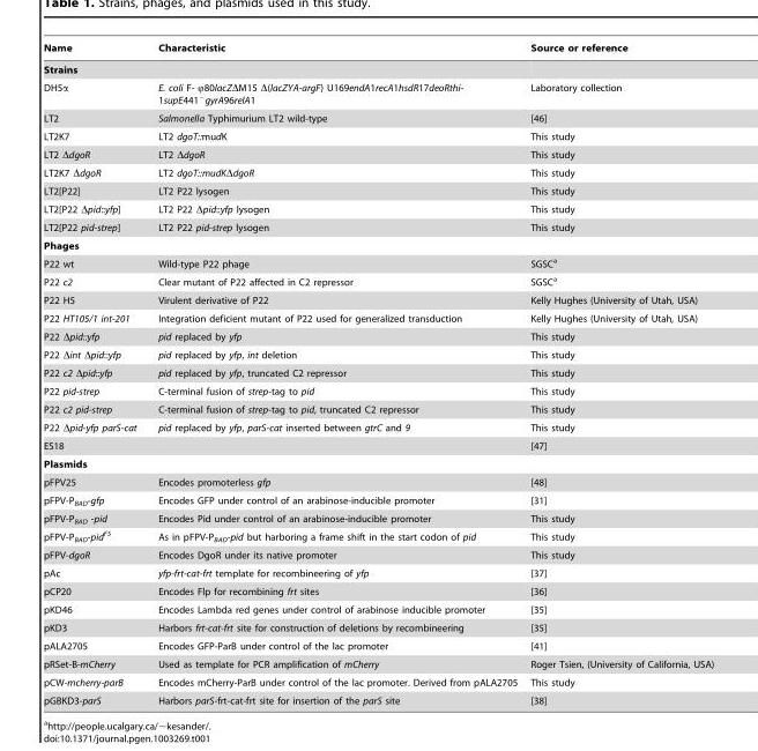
<table><thead><tr><td>Name</td><td>Characteristic</td><td>Source or reference</td></tr></thead><tbody><tr><td colspan="3">Strains</td></tr><tr><td>DH5α</td><td>E. coli F- φ80lacZΔM15 Δ(lacZYA-argF) U169endA1recA1hsdR17deoRthi- 1supE441<sup>−</sup>gyrA96relA1</td><td>Laboratory collection</td></tr><tr><td>LT2</td><td>Salmonella Typhimurium LT2 wild-type</td><td>[46]</td></tr><tr><td>LT2K7</td><td>LT2 dgoT::mudK</td><td>This study</td></tr><tr><td>LT2 ΔdgoR</td><td>LT2 ΔdgoR</td><td>This study</td></tr><tr><td>LT2K7 ΔdgoR</td><td>LT2 dgoT::mudKΔdgoR</td><td>This study</td></tr><tr><td>LT2[P22]</td><td>LT2 P22 lysogen</td><td>This study</td></tr><tr><td>LT2[P22 Δpid::yfp]</td><td>LT2 P22 Δpid::yfp lysogen</td><td>This study</td></tr><tr><td>LT2[P22 pid-strep]</td><td>LT2 P22 pid-strep lysogen</td><td>This study</td></tr><tr><td colspan="3">Phages</td></tr><tr><td>P22 wt</td><td>Wild-type P22 phage</td><td>SGSC<sup>a</sup></td></tr><tr><td>P22 c2</td><td>Clear mutant of P22 affected in C2 repressor</td><td>SGSC<sup>a</sup></td></tr><tr><td>P22 H5</td><td>Virulent derivative of P22</td><td>Kelly Hughes (University of Utah, USA)</td></tr><tr><td>P22 HT105/1 int-201</td><td>Integration deficient mutant of P22 used for generalized transduction</td><td>Kelly Hughes (University of Utah, USA)</td></tr><tr><td>P22 Δpid::yfp</td><td>pid replaced by yfp</td><td>This study</td></tr><tr><td>P22 Δint Δpid::yfp</td><td>pid replaced by yfp, int deletion</td><td>This study</td></tr><tr><td>P22 c2 Δpid::yfp</td><td>pid replaced by yfp, truncated C2 repressor</td><td>This study</td></tr><tr><td>P22 pid-strep</td><td>C-terminal fusion of strep-tag to pid</td><td>This study</td></tr><tr><td>P22 c2 pid-strep</td><td>C-terminal fusion of strep-tag to pid, truncated C2 repressor</td><td>This study</td></tr><tr><td>P22 Δpid-yfp parS-cat</td><td>pid replaced by yfp, parS-cat inserted between gtrC and 9</td><td>This study</td></tr><tr><td>ES18</td><td></td><td>[47]</td></tr><tr><td colspan="3">Plasmids</td></tr><tr><td>pFPV25</td><td>Encodes promoterless gfp</td><td>[48]</td></tr><tr><td>pFPV-P<sub>BAD</sub>-gfp</td><td>Encodes GFP under control of an arabinose-inducible promoter</td><td>[31]</td></tr><tr><td>pFPV-P<sub>BAD</sub> -pid</td><td>Encodes Pid under control of an arabinose-inducible promoter</td><td>This study</td></tr><tr><td>pFPV-P<sub>BAD</sub>-pid<sup>FS</sup></td><td>As in pFPV-P<sub>BAD</sub>-pid but harboring a frame shift in the start codon of pid</td><td>This study</td></tr><tr><td>pFPV-dgoR</td><td>Encodes DgoR under its native promoter</td><td>This study</td></tr><tr><td>pAc</td><td>yfp-frt-cat-frt template for recombineering of yfp</td><td>[37]</td></tr><tr><td>pCP20</td><td>Encodes Flp for recombining frt sites</td><td>[36]</td></tr><tr><td>pKD46</td><td>Encodes Lambda red genes under control of arabinose inducible promoter</td><td>[35]</td></tr><tr><td>pKD3</td><td>Harbors frt-cat-frt site for construction of deletions by recombineering</td><td>[35]</td></tr><tr><td>pALA2705</td><td>Encodes GFP-ParB under control of the lac promoter</td><td>[41]</td></tr><tr><td>pRSet-B-mCherry</td><td>Used as template for PCR amplification of mCherry</td><td>Roger Tsien, (University of California, USA)</td></tr><tr><td>pCW-mcherry-parB</td><td>Encodes mCherry-ParB under control of the lac promoter. Derived from pALA2705</td><td>This study</td></tr><tr><td>pGBKD3-parS</td><td>Harbors parS-frt-cat-frt site for insertion of the parS site</td><td>[38]</td></tr></tbody></table>